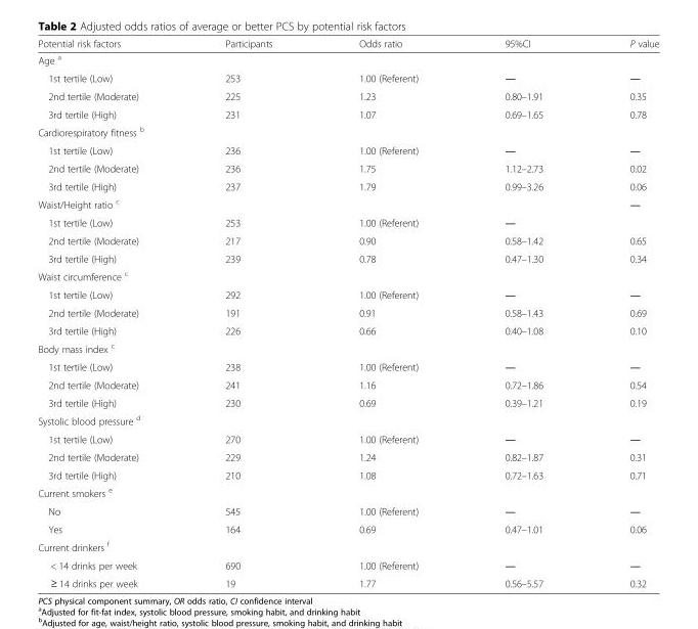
<table><thead><tr><td>Potential risk factors</td><td>Participants</td><td>Odds ratio</td><td>95%CI</td><td>P value</td></tr></thead><tbody><tr><td colspan="5">Age <sup>a</sup></td></tr><tr><td>1st tertile (Low)</td><td>253</td><td>1.00 (Referent)</td><td>―</td><td>―</td></tr><tr><td>2nd tertile (Moderate)</td><td>225</td><td>1.23</td><td>0.80–1.91</td><td>0.35</td></tr><tr><td>3rd tertile (High)</td><td>231</td><td>1.07</td><td>0.69–1.65</td><td>0.78</td></tr><tr><td colspan="5">Cardiorespiratory fitness <sup>b</sup></td></tr><tr><td>1st tertile (Low)</td><td>236</td><td>1.00 (Referent)</td><td>―</td><td>―</td></tr><tr><td>2nd tertile (Moderate)</td><td>236</td><td>1.75</td><td>1.12–2.73</td><td>0.02</td></tr><tr><td>3rd tertile (High)</td><td>237</td><td>1.79</td><td>0.99–3.26</td><td>0.06</td></tr><tr><td colspan="4">Waist/Height ratio <sup>c</sup></td><td rowspan="2">―</td></tr><tr><td>1st tertile (Low)</td><td>253</td><td>1.00 (Referent)</td><td>―</td></tr><tr><td>2nd tertile (Moderate)</td><td>217</td><td>0.90</td><td>0.58–1.42</td><td>0.65</td></tr><tr><td>3rd tertile (High)</td><td>239</td><td>0.78</td><td>0.47–1.30</td><td>0.34</td></tr><tr><td colspan="5">Waist circumference <sup>c</sup></td></tr><tr><td>1st tertile (Low)</td><td>292</td><td>1.00 (Referent)</td><td>―</td><td>―</td></tr><tr><td>2nd tertile (Moderate)</td><td>191</td><td>0.91</td><td>0.58–1.43</td><td>0.69</td></tr><tr><td>3rd tertile (High)</td><td>226</td><td>0.66</td><td>0.40–1.08</td><td>0.10</td></tr><tr><td colspan="5">Body mass index <sup>c</sup></td></tr><tr><td>1st tertile (Low)</td><td>238</td><td>1.00 (Referent)</td><td>―</td><td>―</td></tr><tr><td>2nd tertile (Moderate)</td><td>241</td><td>1.16</td><td>0.72–1.86</td><td>0.54</td></tr><tr><td>3rd tertile (High)</td><td>230</td><td>0.69</td><td>0.39–1.21</td><td>0.19</td></tr><tr><td colspan="5">Systolic blood pressure <sup>d</sup></td></tr><tr><td>1st tertile (Low)</td><td>270</td><td>1.00 (Referent)</td><td>―</td><td>―</td></tr><tr><td>2nd tertile (Moderate)</td><td>229</td><td>1.24</td><td>0.82–1.87</td><td>0.31</td></tr><tr><td>3rd tertile (High)</td><td>210</td><td>1.08</td><td>0.72–1.63</td><td>0.71</td></tr><tr><td colspan="5">Current smokers <sup>e</sup></td></tr><tr><td>No</td><td>545</td><td>1.00 (Referent)</td><td>―</td><td>―</td></tr><tr><td>Yes</td><td>164</td><td>0.69</td><td>0.47–1.01</td><td>0.06</td></tr><tr><td colspan="5">Current drinkers <sup>f</sup></td></tr><tr><td>&lt; 14 drinks per week</td><td>690</td><td>1.00 (Referent)</td><td>―</td><td>―</td></tr><tr><td>≥ 14 drinks per week</td><td>19</td><td>1.77</td><td>0.56–5.57</td><td>0.32</td></tr></tbody></table>